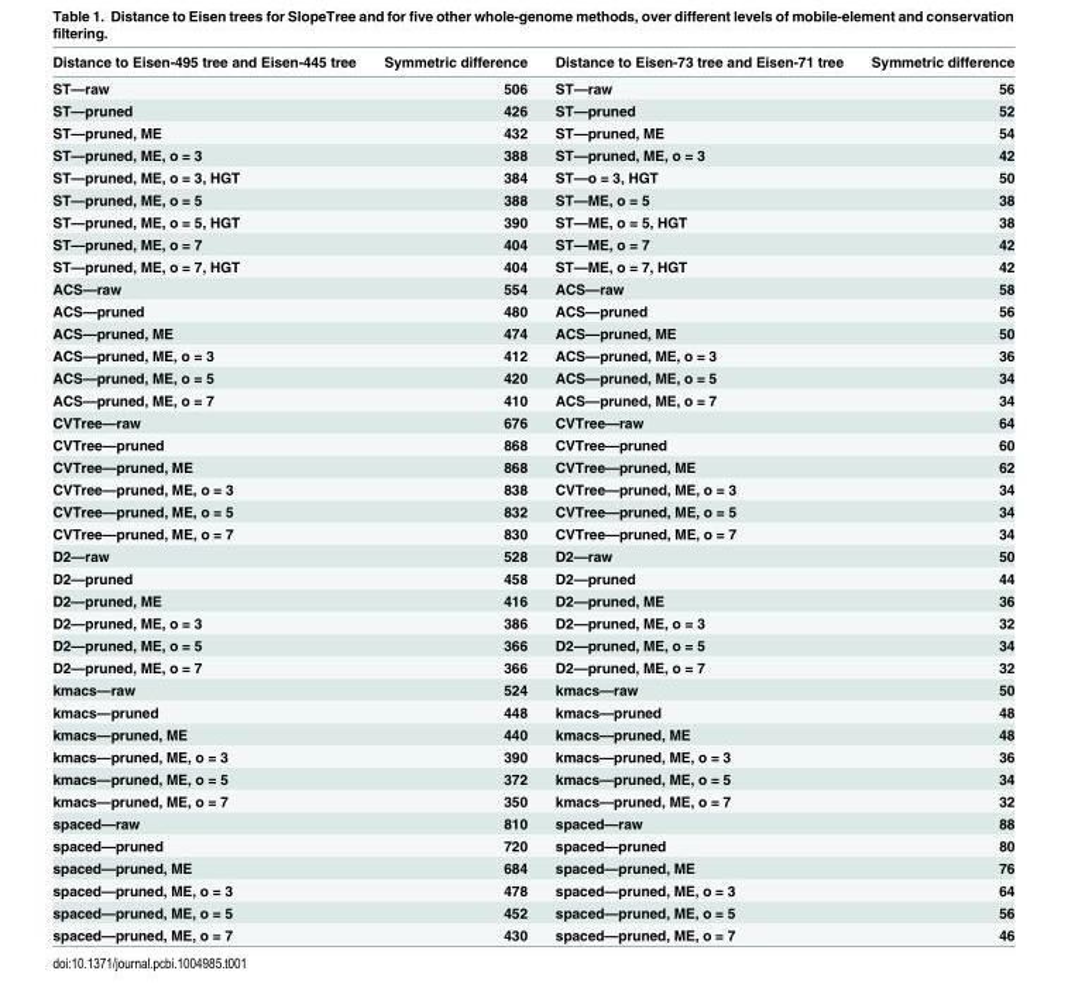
<table><thead><tr><td>Distance to Eisen-495 tree and Eisen-445 tree</td><td>Symmetric difference</td><td>Distance to Eisen-73 tree and Eisen-71 tree</td><td>Symmetric difference</td></tr></thead><tbody><tr><td>ST—raw</td><td>506</td><td>ST—raw</td><td>56</td></tr><tr><td>ST—pruned</td><td>426</td><td>ST—pruned</td><td>52</td></tr><tr><td>ST—pruned, ME</td><td>432</td><td>ST—pruned, ME</td><td>54</td></tr><tr><td>ST—pruned, ME, o = 3</td><td>388</td><td>ST—pruned, ME, o = 3</td><td>42</td></tr><tr><td>ST—pruned, ME, o = 3, HGT</td><td>384</td><td>ST—o = 3, HGT</td><td>50</td></tr><tr><td>ST—pruned, ME, o = 5</td><td>388</td><td>ST—ME, o = 5</td><td>38</td></tr><tr><td>ST—pruned, ME, o = 5, HGT</td><td>390</td><td>ST—ME, o = 5, HGT</td><td>38</td></tr><tr><td>ST—pruned, ME, o = 7</td><td>404</td><td>ST—ME, o = 7</td><td>42</td></tr><tr><td>ST—pruned, ME, o = 7, HGT</td><td>404</td><td>ST—ME, o = 7, HGT</td><td>42</td></tr><tr><td>ACS—raw</td><td>554</td><td>ACS—raw</td><td>58</td></tr><tr><td>ACS—pruned</td><td>480</td><td>ACS—pruned</td><td>56</td></tr><tr><td>ACS—pruned, ME</td><td>474</td><td>ACS—pruned, ME</td><td>50</td></tr><tr><td>ACS—pruned, ME, o = 3</td><td>412</td><td>ACS—pruned, ME, o = 3</td><td>36</td></tr><tr><td>ACS—pruned, ME, o = 5</td><td>420</td><td>ACS—pruned, ME, o = 5</td><td>34</td></tr><tr><td>ACS—pruned, ME, o = 7</td><td>410</td><td>ACS—pruned, ME, o = 7</td><td>34</td></tr><tr><td>CVTree—raw</td><td>676</td><td>CVTree—raw</td><td>64</td></tr><tr><td>CVTree—pruned</td><td>868</td><td>CVTree—pruned</td><td>60</td></tr><tr><td>CVTree—pruned, ME</td><td>868</td><td>CVTree—pruned, ME</td><td>62</td></tr><tr><td>CVTree—pruned, ME, o = 3</td><td>838</td><td>CVTree—pruned, ME, o = 3</td><td>34</td></tr><tr><td>CVTree—pruned, ME, o = 5</td><td>832</td><td>CVTree—pruned, ME, o = 5</td><td>34</td></tr><tr><td>CVTree—pruned, ME, o = 7</td><td>830</td><td>CVTree—pruned, ME, o = 7</td><td>34</td></tr><tr><td>D2—raw</td><td>528</td><td>D2—raw</td><td>50</td></tr><tr><td>D2—pruned</td><td>458</td><td>D2—pruned</td><td>44</td></tr><tr><td>D2—pruned, ME</td><td>416</td><td>D2—pruned, ME</td><td>36</td></tr><tr><td>D2—pruned, ME, o = 3</td><td>386</td><td>D2—pruned, ME, o = 3</td><td>32</td></tr><tr><td>D2—pruned, ME, o = 5</td><td>366</td><td>D2—pruned, ME, o = 5</td><td>34</td></tr><tr><td>D2—pruned, ME, o = 7</td><td>366</td><td>D2—pruned, ME, o = 7</td><td>32</td></tr><tr><td>kmacs—raw</td><td>524</td><td>kmacs—raw</td><td>50</td></tr><tr><td>kmacs—pruned</td><td>448</td><td>kmacs—pruned</td><td>48</td></tr><tr><td>kmacs—pruned, ME</td><td>440</td><td>kmacs—pruned, ME</td><td>48</td></tr><tr><td>kmacs—pruned, ME, o = 3</td><td>390</td><td>kmacs—pruned, ME, o = 3</td><td>36</td></tr><tr><td>kmacs—pruned, ME, o = 5</td><td>372</td><td>kmacs—pruned, ME, o = 5</td><td>34</td></tr><tr><td>kmacs—pruned, ME, o = 7</td><td>350</td><td>kmacs—pruned, ME, o = 7</td><td>32</td></tr><tr><td>spaced—raw</td><td>810</td><td>spaced—raw</td><td>88</td></tr><tr><td>spaced—pruned</td><td>720</td><td>spaced—pruned</td><td>80</td></tr><tr><td>spaced—pruned, ME</td><td>684</td><td>spaced—pruned, ME</td><td>76</td></tr><tr><td>spaced—pruned, ME, o = 3</td><td>478</td><td>spaced—pruned, ME, o = 3</td><td>64</td></tr><tr><td>spaced—pruned, ME, o = 5</td><td>452</td><td>spaced—pruned, ME, o = 5</td><td>56</td></tr><tr><td>spaced—pruned, ME, o = 7</td><td>430</td><td>spaced—pruned, ME, o = 7</td><td>46</td></tr></tbody></table>